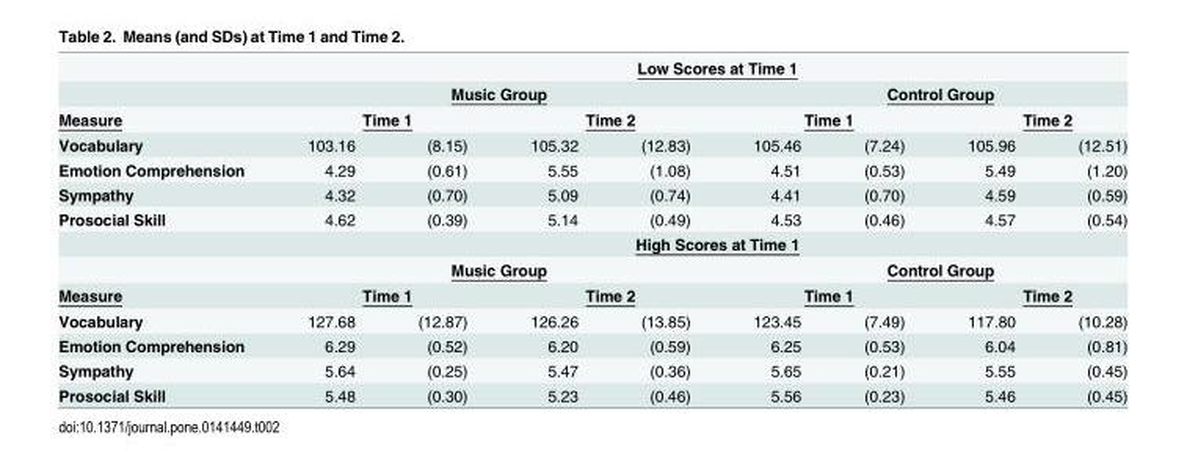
<table><thead><tr><td rowspan="4">Measure Vocabulary</td><td colspan="8">Low Scores at Time 1</td></tr><tr><td colspan="4">Music Group</td><td colspan="4">Control Group</td></tr><tr><td colspan="2">Time 1</td><td colspan="2">Time 2</td><td colspan="2">Time 1</td><td colspan="2">Time 2</td></tr><tr><td>103.16</td><td>(8.15)</td><td>105.32</td><td>(12.83)</td><td>105.46</td><td>(7.24)</td><td>105.96</td><td>(12.51)</td></tr></thead><tbody><tr><td>Emotion Comprehension</td><td>4.29</td><td>(0.61)</td><td>5.55</td><td>(1.08)</td><td>4.51</td><td>(0.53)</td><td>5.49</td><td>(1.20)</td></tr><tr><td>Sympathy</td><td>4.32</td><td>(0.70)</td><td>5.09</td><td>(0.74)</td><td>4.41</td><td>(0.70)</td><td>4.59</td><td>(0.59)</td></tr><tr><td rowspan="3">Prosocial Skill</td><td>4.62</td><td>(0.39)</td><td>5.14</td><td>(0.49)</td><td>4.53</td><td>(0.46)</td><td>4.57</td><td>(0.54)</td></tr><tr><td colspan="8">High Scores at Time 1</td></tr><tr><td colspan="4">Music Group</td><td colspan="4">Control Group</td></tr><tr><td>Measure</td><td colspan="2">Time 1</td><td colspan="2">Time 2</td><td colspan="2">Time 1</td><td colspan="2">Time 2</td></tr><tr><td>Vocabulary</td><td>127.68</td><td>(12.87)</td><td>126.26</td><td>(13.85)</td><td>123.45</td><td>(7.49)</td><td>117.80</td><td>(10.28)</td></tr><tr><td>Emotion Comprehension</td><td>6.29</td><td>(0.52)</td><td>6.20</td><td>(0.59)</td><td>6.25</td><td>(0.53)</td><td>6.04</td><td>(0.81)</td></tr><tr><td>Sympathy</td><td>5.64</td><td>(0.25)</td><td>5.47</td><td>(0.36)</td><td>5.65</td><td>(0.21)</td><td>5.55</td><td>(0.45)</td></tr><tr><td>Prosocial Skill</td><td>5.48</td><td>(0.30)</td><td>5.23</td><td>(0.46)</td><td>5.56</td><td>(0.23)</td><td>5.46</td><td>(0.45)</td></tr></tbody></table>